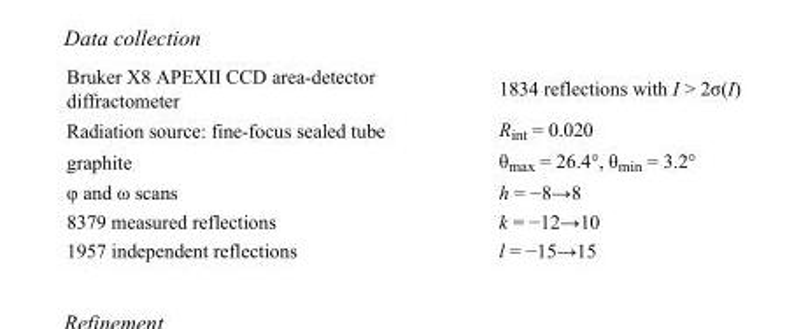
<table><tbody><tr><td>Bruker X8 APEXII CCD area-detector diffractometer</td><td>1834 reflections with I &gt; 2σ(I)</td></tr><tr><td>Radiation source: fine-focus sealed tube</td><td>R<sub>int</sub> = 0.020</td></tr><tr><td>graphite</td><td>θ<sub>max</sub> = 26.4°, θ<sub>min</sub> = 3.2°</td></tr><tr><td>φ and ω scans</td><td>h = −8→8</td></tr><tr><td>8379 measured reflections</td><td>k = −12→10</td></tr><tr><td>1957 independent reflections</td><td>l = −15→15</td></tr></tbody></table>